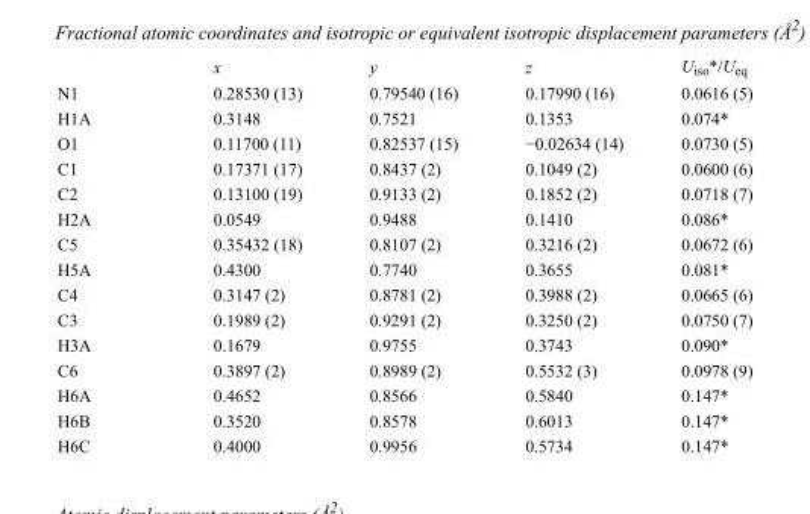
<table><thead><tr><td></td><td>x</td><td>y</td><td>z</td><td>U<sub>iso</sub>*/U<sub>eq</sub></td></tr></thead><tbody><tr><td>N1</td><td>0.28530 (13)</td><td>0.79540 (16)</td><td>0.17990 (16)</td><td>0.0616 (5)</td></tr><tr><td>H1A</td><td>0.3148</td><td>0.7521</td><td>0.1353</td><td>0.074*</td></tr><tr><td>O1</td><td>0.11700 (11)</td><td>0.82537 (15)</td><td>−0.02634 (14)</td><td>0.0730 (5)</td></tr><tr><td>C1</td><td>0.17371 (17)</td><td>0.8437 (2)</td><td>0.1049 (2)</td><td>0.0600 (6)</td></tr><tr><td>C2</td><td>0.13100 (19)</td><td>0.9133 (2)</td><td>0.1852 (2)</td><td>0.0718 (7)</td></tr><tr><td>H2A</td><td>0.0549</td><td>0.9488</td><td>0.1410</td><td>0.086*</td></tr><tr><td>C5</td><td>0.35432 (18)</td><td>0.8107 (2)</td><td>0.3216 (2)</td><td>0.0672 (6)</td></tr><tr><td>H5A</td><td>0.4300</td><td>0.7740</td><td>0.3655</td><td>0.081*</td></tr><tr><td>C4</td><td>0.3147 (2)</td><td>0.8781 (2)</td><td>0.3988 (2)</td><td>0.0665 (6)</td></tr><tr><td>C3</td><td>0.1989 (2)</td><td>0.9291 (2)</td><td>0.3250 (2)</td><td>0.0750 (7)</td></tr><tr><td>H3A</td><td>0.1679</td><td>0.9755</td><td>0.3743</td><td>0.090*</td></tr><tr><td>C6</td><td>0.3897 (2)</td><td>0.8989 (2)</td><td>0.5532 (3)</td><td>0.0978 (9)</td></tr><tr><td>H6A</td><td>0.4652</td><td>0.8566</td><td>0.5840</td><td>0.147*</td></tr><tr><td>H6B</td><td>0.3520</td><td>0.8578</td><td>0.6013</td><td>0.147*</td></tr><tr><td>H6C</td><td>0.4000</td><td>0.9956</td><td>0.5734</td><td>0.147*</td></tr></tbody></table>